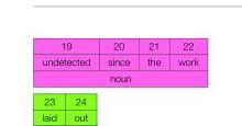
<table><tbody><tr><td>19</td><td>20</td><td>21</td><td>22</td></tr><tr><td>undetected</td><td>since</td><td>the</td><td>work</td></tr><tr><td colspan="4">noun</td></tr></tbody></table>